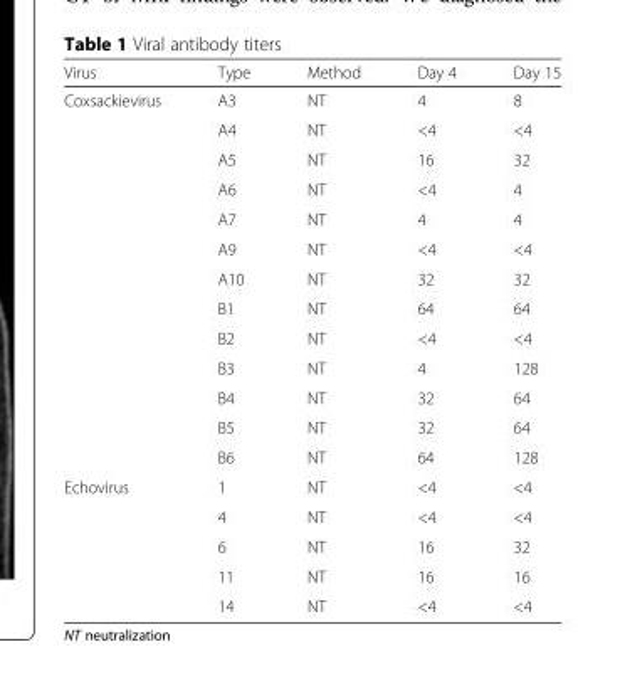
<table><thead><tr><td>Virus</td><td>Type</td><td>Method</td><td>Day 4</td><td>Day 15</td></tr></thead><tbody><tr><td rowspan="13">Coxsackievirus</td><td>A3</td><td>NT</td><td>4</td><td>8</td></tr><tr><td>A4</td><td>NT</td><td>&lt;4</td><td>&lt;4</td></tr><tr><td>A5</td><td>NT</td><td>16</td><td>32</td></tr><tr><td>A6</td><td>NT</td><td>&lt;4</td><td>4</td></tr><tr><td>A7</td><td>NT</td><td>4</td><td>4</td></tr><tr><td>A9</td><td>NT</td><td>&lt;4</td><td>&lt;4</td></tr><tr><td>A10</td><td>NT</td><td>32</td><td>32</td></tr><tr><td>B1</td><td>NT</td><td>64</td><td>64</td></tr><tr><td>B2</td><td>NT</td><td>&lt;4</td><td>&lt;4</td></tr><tr><td>B3</td><td>NT</td><td>4</td><td>128</td></tr><tr><td>B4</td><td>NT</td><td>32</td><td>64</td></tr><tr><td>B5</td><td>NT</td><td>32</td><td>64</td></tr><tr><td>B6</td><td>NT</td><td>64</td><td>128</td></tr><tr><td rowspan="5">Echovirus</td><td>1</td><td>NT</td><td>&lt;4</td><td>&lt;4</td></tr><tr><td>4</td><td>NT</td><td>&lt;4</td><td>&lt;4</td></tr><tr><td>6</td><td>NT</td><td>16</td><td>32</td></tr><tr><td>11</td><td>NT</td><td>16</td><td>16</td></tr><tr><td>14</td><td>NT</td><td>&lt;4</td><td>&lt;4</td></tr></tbody></table>